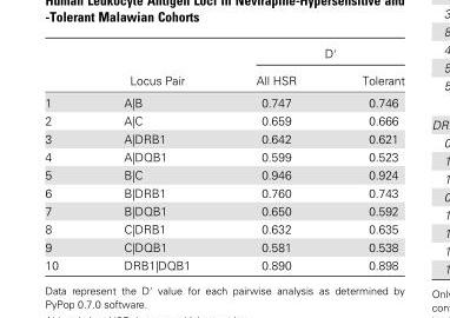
<table><thead><tr><td rowspan="2"></td><td rowspan="2">Locus Pair</td><td colspan="2">D′</td></tr><tr><td>All HSR</td><td>Tolerant</td></tr></thead><tbody><tr><td>1</td><td>A|B</td><td>0.747</td><td>0.746</td></tr><tr><td>2</td><td>A|C</td><td>0.659</td><td>0.666</td></tr><tr><td>3</td><td>A|DRB1</td><td>0.642</td><td>0.621</td></tr><tr><td>4</td><td>A|DQB1</td><td>0.599</td><td>0.523</td></tr><tr><td>5</td><td>B|C</td><td>0.946</td><td>0.924</td></tr><tr><td>6</td><td>B|DRB1</td><td>0.760</td><td>0.743</td></tr><tr><td>7</td><td>B|DQB1</td><td>0.650</td><td>0.592</td></tr><tr><td>8</td><td>C|DRB1</td><td>0.632</td><td>0.635</td></tr><tr><td>9</td><td>C|DQB1</td><td>0.581</td><td>0.538</td></tr><tr><td>10</td><td>DRB1|DQB1</td><td>0.890</td><td>0.898</td></tr></tbody></table>